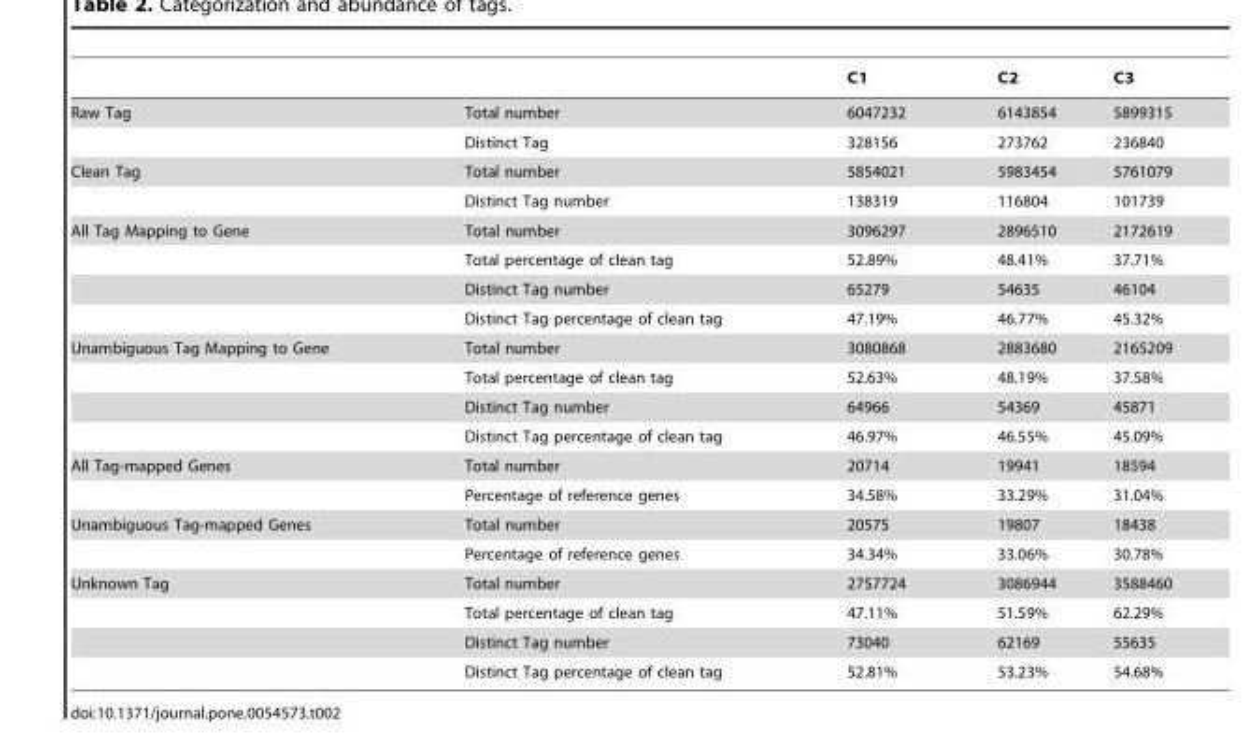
<table><thead><tr><td></td><td></td><td>C1</td><td>C2</td><td>C3</td></tr></thead><tbody><tr><td rowspan="2">Raw Tag</td><td>Total number</td><td>6047232</td><td>6143854</td><td>5899315</td></tr><tr><td>Distinct Tag</td><td>328156</td><td>273762</td><td>236840</td></tr><tr><td rowspan="2">Clean Tag</td><td>Total number</td><td>5854021</td><td>5983454</td><td>5761079</td></tr><tr><td>Distinct Tag number</td><td>138319</td><td>116804</td><td>101739</td></tr><tr><td rowspan="4">All Tag Mapping to Gene</td><td>Total number</td><td>3096297</td><td>2896510</td><td>2172619</td></tr><tr><td>Total percentage of clean tag</td><td>52.89%</td><td>48.41%</td><td>37.71%</td></tr><tr><td>Distinct Tag number</td><td>65279</td><td>54635</td><td>46104</td></tr><tr><td>Distinct Tag percentage of clean tag</td><td>47.19%</td><td>46.77%</td><td>45.32%</td></tr><tr><td rowspan="4">Unambiguous Tag Mapping to Gene</td><td>Total number</td><td>3080868</td><td>2883680</td><td>2165209</td></tr><tr><td>Total percentage of clean tag</td><td>52.63%</td><td>48.19%</td><td>37.58%</td></tr><tr><td>Distinct Tag number</td><td>64966</td><td>54369</td><td>45871</td></tr><tr><td>Distinct Tag percentage of clean tag</td><td>46.97%</td><td>46.55%</td><td>45.09%</td></tr><tr><td rowspan="2">All Tag-mapped Genes</td><td>Total number</td><td>20714</td><td>19941</td><td>18594</td></tr><tr><td>Percentage of reference genes</td><td>34.58%</td><td>33.29%</td><td>31.04%</td></tr><tr><td rowspan="2">Unambiguous Tag-mapped Genes</td><td>Total number</td><td>20575</td><td>19807</td><td>18438</td></tr><tr><td>Percentage of reference genes</td><td>34.34%</td><td>33.06%</td><td>30.78%</td></tr><tr><td rowspan="4">Unknown Tag</td><td>Total number</td><td>2757724</td><td>3086944</td><td>3588460</td></tr><tr><td>Total percentage of clean tag</td><td>47.11%</td><td>51.59%</td><td>62.29%</td></tr><tr><td>Distinct Tag number</td><td>73040</td><td>62169</td><td>55635</td></tr><tr><td>Distinct Tag percentage of clean tag</td><td>52.81%</td><td>53.23%</td><td>54.68%</td></tr></tbody></table>